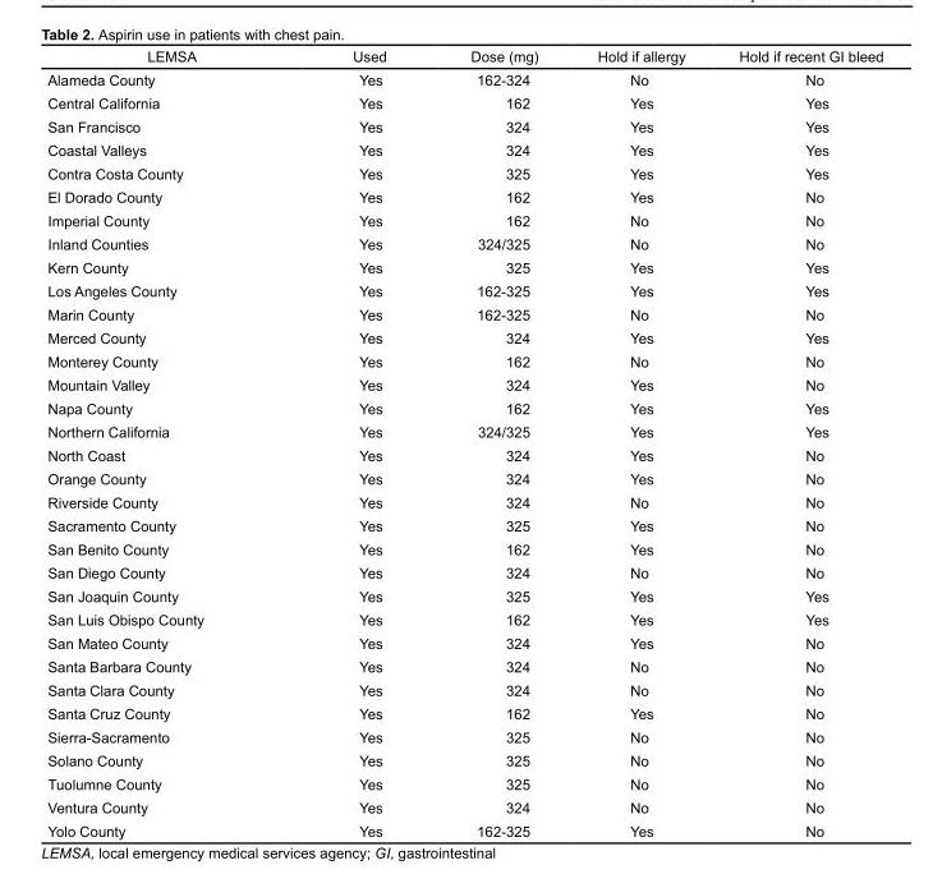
<table><thead><tr><td>LEMSA</td><td>Used</td><td>Dose (mg)</td><td>Hold if allergy</td><td>Hold if recent GI bleed</td></tr></thead><tbody><tr><td>Alameda County</td><td>Yes</td><td>162-324</td><td>No</td><td>No</td></tr><tr><td>Central California</td><td>Yes</td><td>162</td><td>Yes</td><td>Yes</td></tr><tr><td>San Francisco</td><td>Yes</td><td>324</td><td>Yes</td><td>Yes</td></tr><tr><td>Coastal Valleys</td><td>Yes</td><td>324</td><td>Yes</td><td>Yes</td></tr><tr><td>Contra Costa County</td><td>Yes</td><td>325</td><td>Yes</td><td>Yes</td></tr><tr><td>El Dorado County</td><td>Yes</td><td>162</td><td>Yes</td><td>No</td></tr><tr><td>Imperial County</td><td>Yes</td><td>162</td><td>No</td><td>No</td></tr><tr><td>Inland Counties</td><td>Yes</td><td>324/325</td><td>No</td><td>No</td></tr><tr><td>Kern County</td><td>Yes</td><td>325</td><td>Yes</td><td>Yes</td></tr><tr><td>Los Angeles County</td><td>Yes</td><td>162-325</td><td>Yes</td><td>Yes</td></tr><tr><td>Marin County</td><td>Yes</td><td>162-325</td><td>No</td><td>No</td></tr><tr><td>Merced County</td><td>Yes</td><td>324</td><td>Yes</td><td>Yes</td></tr><tr><td>Monterey County</td><td>Yes</td><td>162</td><td>No</td><td>No</td></tr><tr><td>Mountain Valley</td><td>Yes</td><td>324</td><td>Yes</td><td>No</td></tr><tr><td>Napa County</td><td>Yes</td><td>162</td><td>Yes</td><td>Yes</td></tr><tr><td>Northern California</td><td>Yes</td><td>324/325</td><td>Yes</td><td>Yes</td></tr><tr><td>North Coast</td><td>Yes</td><td>324</td><td>Yes</td><td>No</td></tr><tr><td>Orange County</td><td>Yes</td><td>324</td><td>Yes</td><td>No</td></tr><tr><td>Riverside County</td><td>Yes</td><td>324</td><td>No</td><td>No</td></tr><tr><td>Sacramento County</td><td>Yes</td><td>325</td><td>Yes</td><td>No</td></tr><tr><td>San Benito County</td><td>Yes</td><td>162</td><td>Yes</td><td>No</td></tr><tr><td>San Diego County</td><td>Yes</td><td>324</td><td>No</td><td>No</td></tr><tr><td>San Joaquin County</td><td>Yes</td><td>325</td><td>Yes</td><td>Yes</td></tr><tr><td>San Luis Obispo County</td><td>Yes</td><td>162</td><td>Yes</td><td>Yes</td></tr><tr><td>San Mateo County</td><td>Yes</td><td>324</td><td>Yes</td><td>No</td></tr><tr><td>Santa Barbara County</td><td>Yes</td><td>324</td><td>No</td><td>No</td></tr><tr><td>Santa Clara County</td><td>Yes</td><td>324</td><td>No</td><td>No</td></tr><tr><td>Santa Cruz County</td><td>Yes</td><td>162</td><td>Yes</td><td>No</td></tr><tr><td>Sierra-Sacramento</td><td>Yes</td><td>325</td><td>No</td><td>No</td></tr><tr><td>Solano County</td><td>Yes</td><td>325</td><td>No</td><td>No</td></tr><tr><td>Tuolumne County</td><td>Yes</td><td>325</td><td>No</td><td>No</td></tr><tr><td>Ventura County</td><td>Yes</td><td>324</td><td>No</td><td>No</td></tr><tr><td>Yolo County</td><td>Yes</td><td>162-325</td><td>Yes</td><td>No</td></tr></tbody></table>